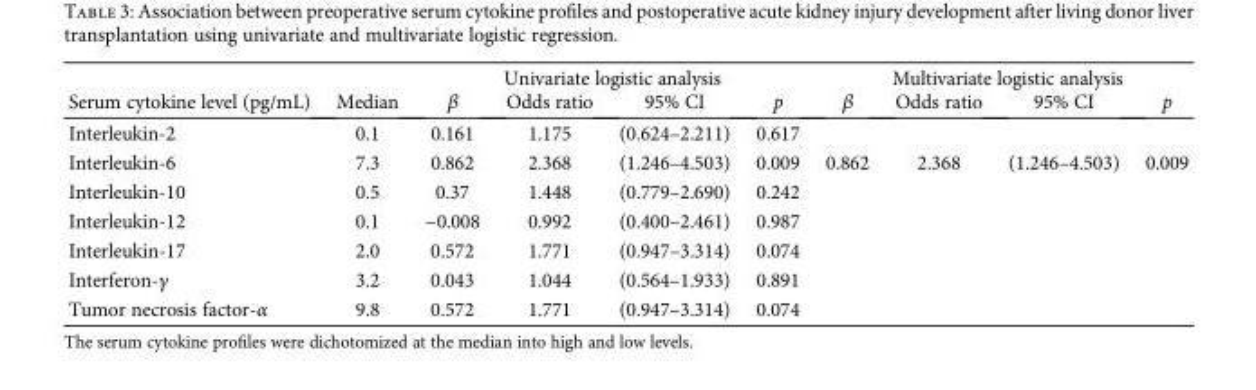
<table><thead><tr><td rowspan="2">Serum cytokine level (pg/mL)</td><td rowspan="2">Median</td><td colspan="4">Univariate logistic analysis</td><td colspan="4">Multivariate logistic analysis</td></tr><tr><td>β</td><td>Odds ratio</td><td>95% CI</td><td>p</td><td>β</td><td>Odds ratio</td><td>95% CI</td><td>p</td></tr></thead><tbody><tr><td>Interleukin-2</td><td>0.1</td><td>0.161</td><td>1.175</td><td>(0.624–2.211)</td><td>0.617</td><td></td><td></td><td></td><td></td></tr><tr><td>Interleukin-6</td><td>7.3</td><td>0.862</td><td>2.368</td><td>(1.246–4.503)</td><td>0.009</td><td>0.862</td><td>2.368</td><td>(1.246–4.503)</td><td>0.009</td></tr><tr><td>Interleukin-10</td><td>0.5</td><td>0.37</td><td>1.448</td><td>(0.779–2.690)</td><td>0.242</td><td></td><td></td><td></td><td></td></tr><tr><td>Interleukin-12</td><td>0.1</td><td>−0.008</td><td>0.992</td><td>(0.400–2.461)</td><td>0.987</td><td></td><td></td><td></td><td></td></tr><tr><td>Interleukin-17</td><td>2.0</td><td>0.572</td><td>1.771</td><td>(0.947–3.314)</td><td>0.074</td><td></td><td></td><td></td><td></td></tr><tr><td>Interferon-γ</td><td>3.2</td><td>0.043</td><td>1.044</td><td>(0.564–1.933)</td><td>0.891</td><td></td><td></td><td></td><td></td></tr><tr><td>Tumor necrosis factor-α</td><td>9.8</td><td>0.572</td><td>1.771</td><td>(0.947–3.314)</td><td>0.074</td><td></td><td></td><td></td><td></td></tr></tbody></table>